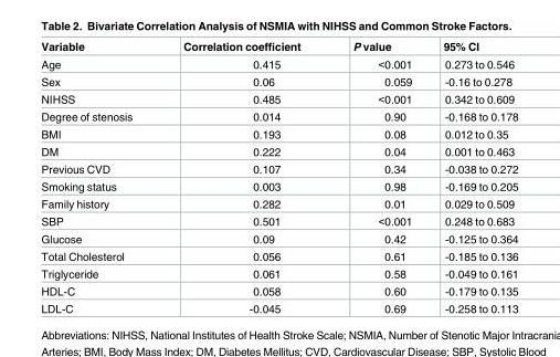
<table><thead><tr><td>Variable</td><td>Correlation coefficient</td><td>P value</td><td>95% CI</td></tr></thead><tbody><tr><td>Age</td><td>0.415</td><td>&lt;0.001</td><td>0.273 to 0.546</td></tr><tr><td>Sex</td><td>0.06</td><td>0.059</td><td>-0.16 to 0.278</td></tr><tr><td>NIHSS</td><td>0.485</td><td>&lt;0.001</td><td>0.342 to 0.609</td></tr><tr><td>Degree of stenosis</td><td>0.014</td><td>0.90</td><td>-0.168 to 0.178</td></tr><tr><td>BMI</td><td>0.193</td><td>0.08</td><td>0.012 to 0.35</td></tr><tr><td>DM</td><td>0.222</td><td>0.04</td><td>0.001 to 0.463</td></tr><tr><td>Previous CVD</td><td>0.107</td><td>0.34</td><td>-0.038 to 0.272</td></tr><tr><td>Smoking status</td><td>0.003</td><td>0.98</td><td>-0.169 to 0.205</td></tr><tr><td>Family history</td><td>0.282</td><td>0.01</td><td>0.029 to 0.509</td></tr><tr><td>SBP</td><td>0.501</td><td>&lt;0.001</td><td>0.248 to 0.683</td></tr><tr><td>Glucose</td><td>0.09</td><td>0.42</td><td>-0.125 to 0.364</td></tr><tr><td>Total Cholesterol</td><td>0.056</td><td>0.61</td><td>-0.185 to 0.136</td></tr><tr><td>Triglyceride</td><td>0.061</td><td>0.58</td><td>-0.049 to 0.161</td></tr><tr><td>HDL-C</td><td>0.058</td><td>0.60</td><td>-0.179 to 0.135</td></tr><tr><td>LDL-C</td><td>-0.045</td><td>0.69</td><td>-0.258 to 0.113</td></tr></tbody></table>